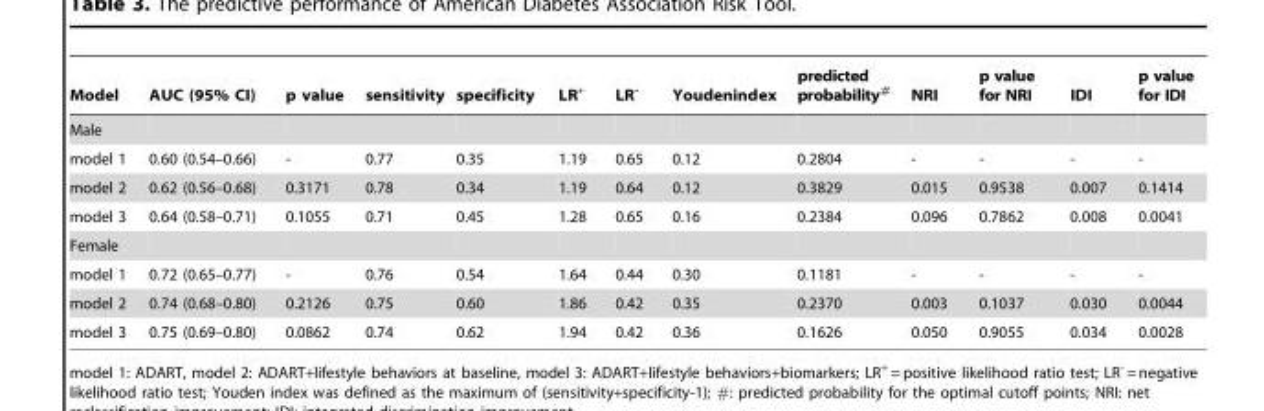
<table><thead><tr><td>Model</td><td>AUC (95% CI)</td><td>p value</td><td>sensitivity</td><td>specificity</td><td>LR<sup>+</sup></td><td>LR<sup>-</sup></td><td>Youdenindex</td><td>predicted probability<sup>#</sup></td><td>NRI</td><td>p value for NRI</td><td>IDI</td><td>p value for IDI</td></tr></thead><tbody><tr><td colspan="13">Male</td></tr><tr><td>model 1</td><td>0.60 (0.54–0.66)</td><td>-</td><td>0.77</td><td>0.35</td><td>1.19</td><td>0.65</td><td>0.12</td><td>0.2804</td><td>-</td><td>-</td><td>-</td><td>-</td></tr><tr><td>model 2</td><td>0.62 (0.56–0.68)</td><td>0.3171</td><td>0.78</td><td>0.34</td><td>1.19</td><td>0.64</td><td>0.12</td><td>0.3829</td><td>0.015</td><td>0.9538</td><td>0.007</td><td>0.1414</td></tr><tr><td>model 3</td><td>0.64 (0.58–0.71)</td><td>0.1055</td><td>0.71</td><td>0.45</td><td>1.28</td><td>0.65</td><td>0.16</td><td>0.2384</td><td>0.096</td><td>0.7862</td><td>0.008</td><td>0.0041</td></tr><tr><td colspan="13">Female</td></tr><tr><td>model 1</td><td>0.72 (0.65–0.77)</td><td>-</td><td>0.76</td><td>0.54</td><td>1.64</td><td>0.44</td><td>0.30</td><td>0.1181</td><td>-</td><td>-</td><td>-</td><td>-</td></tr><tr><td>model 2</td><td>0.74 (0.68–0.80)</td><td>0.2126</td><td>0.75</td><td>0.60</td><td>1.86</td><td>0.42</td><td>0.35</td><td>0.2370</td><td>0.003</td><td>0.1037</td><td>0.030</td><td>0.0044</td></tr><tr><td>model 3</td><td>0.75 (0.69–0.80)</td><td>0.0862</td><td>0.74</td><td>0.62</td><td>1.94</td><td>0.42</td><td>0.36</td><td>0.1626</td><td>0.050</td><td>0.9055</td><td>0.034</td><td>0.0028</td></tr></tbody></table>